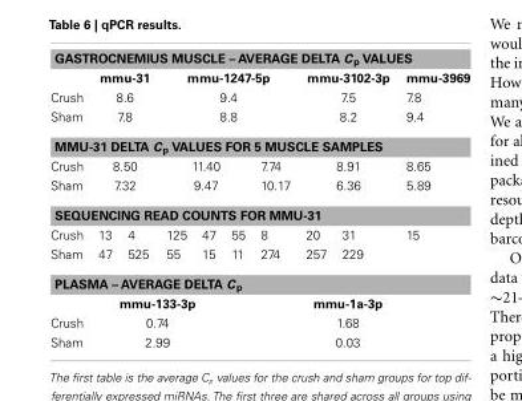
<table><tbody><tr><td colspan="10">GASTROCNEMIUS MUSCLE – AVERAGE DELTA C<sub>p</sub> VALUES</td></tr><tr><td></td><td colspan="2">mmu-31</td><td colspan="4">mmu-1247-5p</td><td colspan="2">mmu-3102-3p</td><td>mmu-3969</td></tr><tr><td>Crush</td><td colspan="2">8.6</td><td colspan="4">9.4</td><td colspan="2">7.5</td><td>7.8</td></tr><tr><td>Sham</td><td colspan="2">7.8</td><td colspan="4">8.8</td><td colspan="2">8.2</td><td>9.4</td></tr><tr><td colspan="10">MMU-31 DELTA C<sub>p</sub> VALUES FOR 5 MUSCLE SAMPLES</td></tr><tr><td>Crush</td><td colspan="2">8.50</td><td colspan="3">11.40</td><td>7.74</td><td colspan="2">8.91</td><td>8.65</td></tr><tr><td>Sham</td><td colspan="2">7.32</td><td colspan="3">9.47</td><td>10.17</td><td colspan="2">6.36</td><td>5.89</td></tr><tr><td colspan="10">SEQUENCING READ COUNTS FOR MMU-31</td></tr><tr><td>Crush</td><td>13</td><td>4</td><td>125</td><td>47</td><td>55</td><td>8</td><td>20</td><td>31</td><td>15</td></tr><tr><td>Sham</td><td>47</td><td>525</td><td>55</td><td>15</td><td>11</td><td>274</td><td>257</td><td>229</td><td></td></tr><tr><td colspan="10">PLASMA – AVERAGE DELTA C<sub>p</sub></td></tr><tr><td></td><td></td><td colspan="3">mmu-133-3p</td><td></td><td></td><td colspan="2">mmu-1a-3p</td><td></td></tr><tr><td>Crush</td><td></td><td colspan="3">0.74</td><td></td><td></td><td colspan="2">1.68</td><td></td></tr><tr><td>Sham</td><td></td><td colspan="3">2.99</td><td></td><td></td><td colspan="2">0.03</td><td></td></tr></tbody></table>